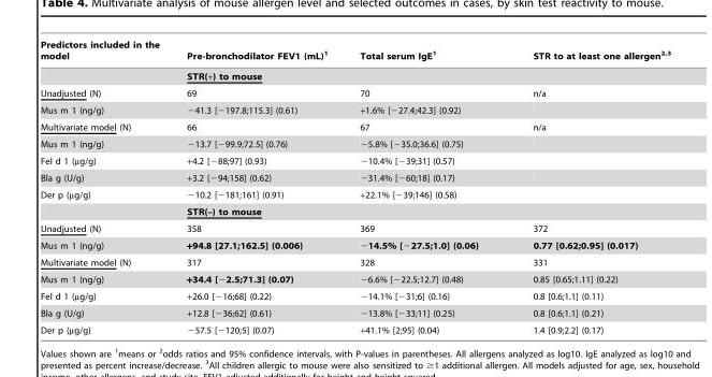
<table><thead><tr><td>Predictors included in the model</td><td>Pre-bronchodilator FEV1 (mL)<sup>1</sup></td><td>Total serum IgE<sup>1</sup></td><td>STR to at least one allergen<sup>2,3</sup></td></tr></thead><tbody><tr><td></td><td colspan="3">STR(+) to mouse</td></tr><tr><td>Unadjusted (N)</td><td>69</td><td>70</td><td>n/a</td></tr><tr><td>Mus m 1 (ng/g)</td><td>−41.3 [−197.8;115.3] (0.61)</td><td>+1.6% [−27.4;42.3] (0.92)</td><td></td></tr><tr><td>Multivariate model (N)</td><td>66</td><td>67</td><td>n/a</td></tr><tr><td>Mus m 1 (ng/g)</td><td>−13.7 [−99.9;72.5] (0.76)</td><td>−5.8% [−35.0;36.6] (0.75)</td><td></td></tr><tr><td>Fel d 1 (µg/g)</td><td>+4.2 [−88;97] (0.93)</td><td>−10.4% [−39;31] (0.57)</td><td></td></tr><tr><td>Bla g (U/g)</td><td>+3.2 [−94;158] (0.62)</td><td>−31.4% [−60;18] (0.17)</td><td></td></tr><tr><td rowspan="2">Der p (µg/g)</td><td>−10.2 [−181;161] (0.91)</td><td>+22.1% [−39;146] (0.58)</td><td></td></tr><tr><td colspan="3">STR(–) to mouse</td></tr><tr><td>Unadjusted (N)</td><td>358</td><td>369</td><td>372</td></tr><tr><td>Mus m 1 (ng/g)</td><td>+94.8 [27.1;162.5] (0.006)</td><td>−14.5% [−27.5;1.0] (0.06)</td><td>0.77 [0.62;0.95] (0.017)</td></tr><tr><td>Multivariate model (N)</td><td>317</td><td>328</td><td>331</td></tr><tr><td>Mus m 1 (ng/g)</td><td>+34.4 [−2.5;71.3] (0.07)</td><td>−6.6% [−22.5;12.7] (0.48)</td><td>0.85 [0.65;1.11] (0.22)</td></tr><tr><td>Fel d 1 (µg/g)</td><td>+26.0 [−16;68] (0.22)</td><td>−14.1% [−31;6] (0.16)</td><td>0.8 [0.6;1.1] (0.11)</td></tr><tr><td>Bla g (U/g)</td><td>+12.8 [−36;62] (0.61)</td><td>−13.8% [−33;11] (0.25)</td><td>0.8 [0.6;1.1] (0.21)</td></tr><tr><td>Der p (µg/g)</td><td>−57.5 [−120;5] (0.07)</td><td>+41.1% [2;95] (0.04)</td><td>1.4 [0.9;2.2] (0.17)</td></tr></tbody></table>